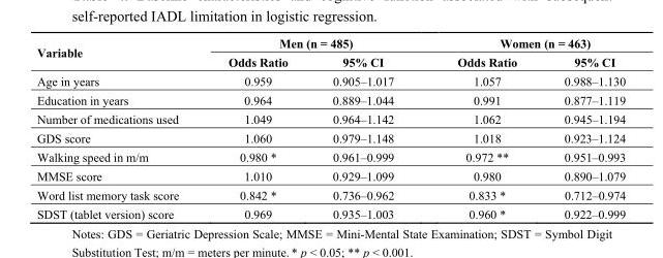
<table><thead><tr><td rowspan="2">Variable</td><td colspan="2">Men (n = 485)</td><td colspan="2">Women (n = 463)</td></tr><tr><td>Odds Ratio</td><td>95% CI</td><td>Odds Ratio</td><td>95% CI</td></tr></thead><tbody><tr><td>Age in years</td><td>0.959</td><td>0.905–1.017</td><td>1.057</td><td>0.988–1.130</td></tr><tr><td>Education in years</td><td>0.964</td><td>0.889–1.044</td><td>0.991</td><td>0.877–1.119</td></tr><tr><td>Number of medications used</td><td>1.049</td><td>0.964–1.142</td><td>1.062</td><td>0.945–1.194</td></tr><tr><td>GDS score</td><td>1.060</td><td>0.979–1.148</td><td>1.018</td><td>0.923–1.124</td></tr><tr><td>Walking speed in m/m</td><td>0.980 *</td><td>0.961–0.999</td><td>0.972 **</td><td>0.951–0.993</td></tr><tr><td>MMSE score</td><td>1.010</td><td>0.929–1.099</td><td>0.980</td><td>0.890–1.079</td></tr><tr><td>Word list memory task score</td><td>0.842 *</td><td>0.736–0.962</td><td>0.833 *</td><td>0.712–0.974</td></tr><tr><td>SDST (tablet version) score</td><td>0.969</td><td>0.935–1.003</td><td>0.960 *</td><td>0.922–0.999</td></tr></tbody></table>